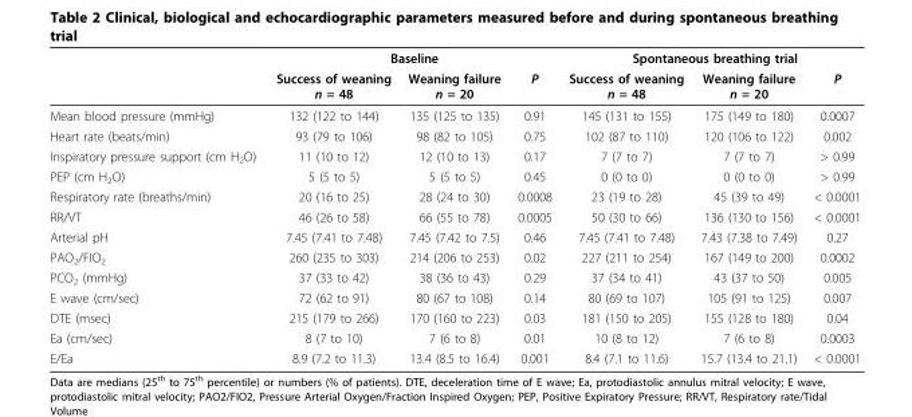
<table><thead><tr><td rowspan="2"></td><td colspan="3">Baseline</td><td colspan="3">Spontaneous breathing trial</td></tr><tr><td>Success of weaning n = 48</td><td>Weaning failure n = 20</td><td>P</td><td>Success of weaning n = 48</td><td>Weaning failure n = 20</td><td>P</td></tr></thead><tbody><tr><td>Mean blood pressure (mmHg)</td><td>132 (122 to 144)</td><td>135 (125 to 135)</td><td>0.91</td><td>145 (131 to 155)</td><td>175 (149 to 180)</td><td>0.0007</td></tr><tr><td>Heart rate (beats/min)</td><td>93 (79 to 106)</td><td>98 (82 to 105)</td><td>0.75</td><td>102 (87 to 110)</td><td>120 (106 to 122)</td><td>0.002</td></tr><tr><td>Inspiratory pressure support (cm H<sub>2</sub>O)</td><td>11 (10 to 12)</td><td>12 (10 to 13)</td><td>0.17</td><td>7 (7 to 7)</td><td>7 (7 to 7)</td><td>&gt; 0.99</td></tr><tr><td>PEP (cm H<sub>2</sub>O)</td><td>5 (5 to 5)</td><td>5 (5 to 5)</td><td>0.45</td><td>0 (0 to 0)</td><td>0 (0 to 0)</td><td>&gt; 0.99</td></tr><tr><td>Respiratory rate (breaths/min)</td><td>20 (16 to 25)</td><td>28 (24 to 30)</td><td>0.0008</td><td>23 (19 to 28)</td><td>45 (39 to 49)</td><td>&lt; 0.0001</td></tr><tr><td>RR/VT</td><td>46 (26 to 58)</td><td>66 (55 to 78)</td><td>0.0005</td><td>50 (30 to 66)</td><td>136 (130 to 156)</td><td>&lt; 0.0001</td></tr><tr><td>Arterial pH</td><td>7.45 (7.41 to 7.48)</td><td>7.45 (7.42 to 7.5)</td><td>0.46</td><td>7.45 (7.41 to 7.48)</td><td>7.43 (7.38 to 7.49)</td><td>0.27</td></tr><tr><td>PAO<sub>2</sub>/FIO<sub>2</sub></td><td>260 (235 to 303)</td><td>214 (206 to 253)</td><td>0.02</td><td>227 (211 to 254)</td><td>167 (149 to 200)</td><td>0.0002</td></tr><tr><td>PCO<sub>2</sub> (mmHg)</td><td>37 (33 to 42)</td><td>38 (36 to 43)</td><td>0.29</td><td>37 (34 to 41)</td><td>43 (37 to 50)</td><td>0.005</td></tr><tr><td>E wave (cm/sec)</td><td>72 (62 to 91)</td><td>80 (67 to 108)</td><td>0.14</td><td>80 (69 to 107)</td><td>105 (91 to 125)</td><td>0.007</td></tr><tr><td>DTE (msec)</td><td>215 (179 to 266)</td><td>170 (160 to 223)</td><td>0.03</td><td>181 (150 to 205)</td><td>155 (128 to 180)</td><td>0.04</td></tr><tr><td>Ea (cm/sec)</td><td>8 (7 to 10)</td><td>7 (6 to 8)</td><td>0.01</td><td>10 (8 to 12)</td><td>7 (6 to 8)</td><td>0.0003</td></tr><tr><td>E/Ea</td><td>8.9 (7.2 to 11.3)</td><td>13.4 (8.5 to 16.4)</td><td>0.001</td><td>8.4 (7.1 to 11.6)</td><td>15.7 (13.4 to 21.1)</td><td>&lt; 0.0001</td></tr></tbody></table>